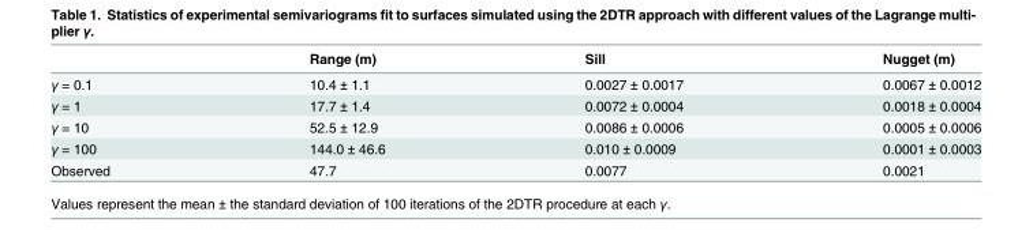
<table><thead><tr><td></td><td>Range (m)</td><td>Sill</td><td>Nugget (m)</td></tr></thead><tbody><tr><td>γ = 0.1</td><td>10.4 ± 1.1</td><td>0.0027 ± 0.0017</td><td>0.0067 ± 0.0012</td></tr><tr><td>γ = 1</td><td>17.7 ± 1.4</td><td>0.0072 ± 0.0004</td><td>0.0018 ± 0.0004</td></tr><tr><td>γ = 10</td><td>52.5 ± 12.9</td><td>0.0086 ± 0.0006</td><td>0.0005 ± 0.0006</td></tr><tr><td>γ = 100</td><td>144.0 ± 46.6</td><td>0.010 ± 0.0009</td><td>0.0001 ± 0.0003</td></tr><tr><td>Observed</td><td>47.7</td><td>0.0077</td><td>0.0021</td></tr></tbody></table>